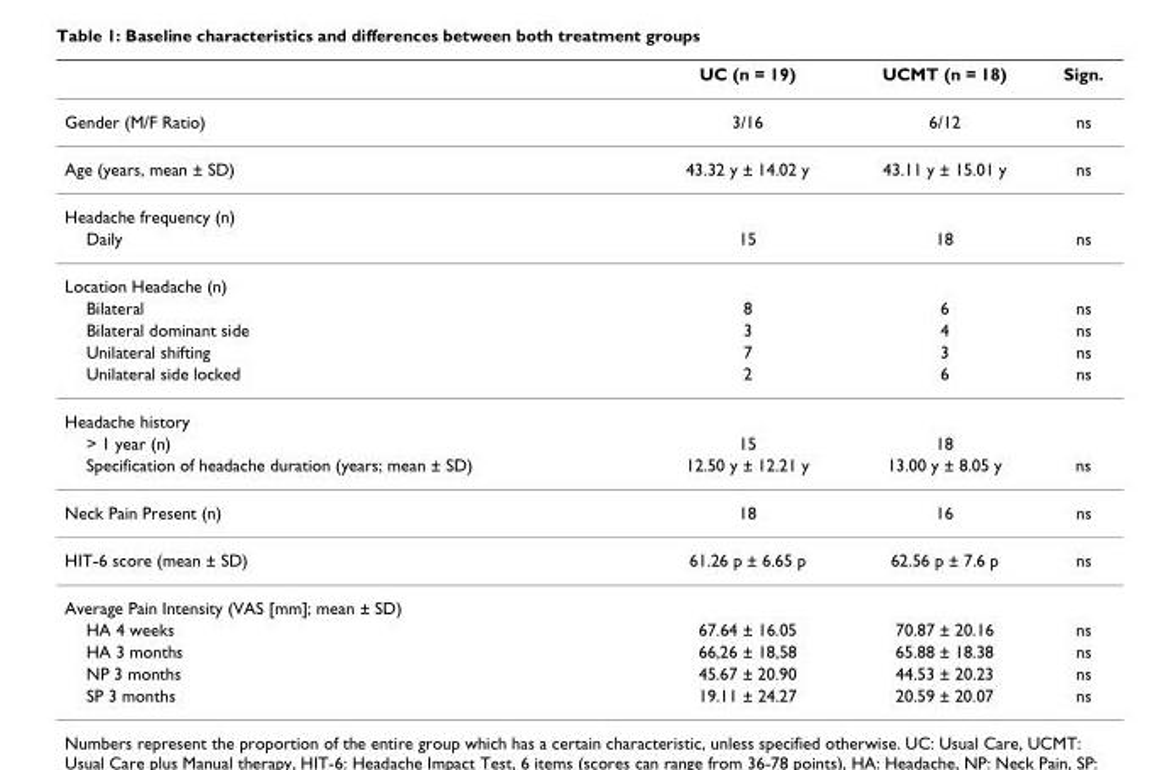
<table><thead><tr><td></td><td>UC (n = 19)</td><td>UCMT (n = 18)</td><td>Sign.</td></tr></thead><tbody><tr><td>Gender (M/F Ratio)</td><td>3/16</td><td>6/12</td><td>ns</td></tr><tr><td>Age (years, mean ± SD)</td><td>43.32 y ± 14.02 y</td><td>43.11 y ± 15.01 y</td><td>ns</td></tr><tr><td colspan="4">Headache frequency (n)</td></tr><tr><td>Daily</td><td>15</td><td>18</td><td>ns</td></tr><tr><td colspan="4">Location Headache (n)</td></tr><tr><td>Bilateral</td><td>8</td><td>6</td><td>ns</td></tr><tr><td>Bilateral dominant side</td><td>3</td><td>4</td><td>ns</td></tr><tr><td>Unilateral shifting</td><td>7</td><td>3</td><td>ns</td></tr><tr><td>Unilateral side locked</td><td>2</td><td>6</td><td>ns</td></tr><tr><td colspan="4">Headache history</td></tr><tr><td>&gt; 1 year (n)</td><td>15</td><td>18</td><td></td></tr><tr><td>Specification of headache duration (years; mean ± SD)</td><td>12.50 y ± 12.21 y</td><td>13.00 y ± 8.05 y</td><td>ns</td></tr><tr><td>Neck Pain Present (n)</td><td>18</td><td>16</td><td>ns</td></tr><tr><td>HIT-6 score (mean ± SD)</td><td>61.26 p ± 6.65 p</td><td>62.56 p ± 7.6 p</td><td>ns</td></tr><tr><td colspan="4">Average Pain Intensity (VAS [mm]; mean ± SD)</td></tr><tr><td>HA 4 weeks</td><td>67.64 ± 16.05</td><td>70.87 ± 20.16</td><td>ns</td></tr><tr><td>HA 3 months</td><td>66,26 ± 18,58</td><td>65.88 ± 18.38</td><td>ns</td></tr><tr><td>NP 3 months</td><td>45.67 ± 20.90</td><td>44.53 ± 20.23</td><td>ns</td></tr><tr><td>SP 3 months</td><td>19.11 ± 24.27</td><td>20.59 ± 20.07</td><td>ns</td></tr></tbody></table>